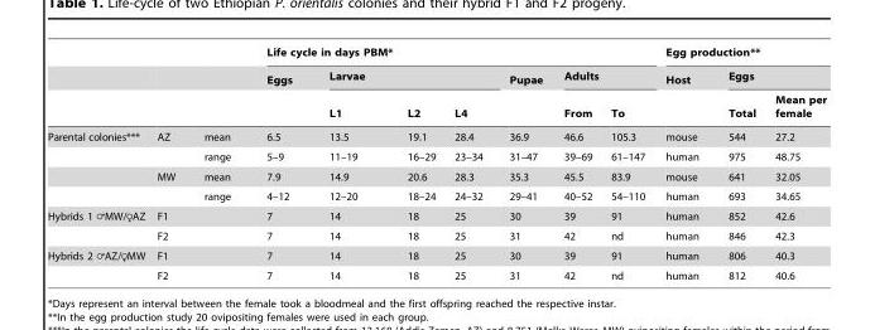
<table><thead><tr><td rowspan="3"></td><td rowspan="3"></td><td rowspan="3"></td><td colspan="7">Life cycle in days PBM*</td><td colspan="3">Egg production**</td></tr><tr><td rowspan="2">Eggs</td><td colspan="3">Larvae</td><td rowspan="2">Pupae</td><td colspan="2">Adults</td><td rowspan="2">Host</td><td colspan="2">Eggs</td></tr><tr><td>L1</td><td>L2</td><td>L4</td><td>From</td><td>To</td><td>Total</td><td>Mean per female</td></tr></thead><tbody><tr><td rowspan="4">Parental colonies***</td><td>AZ</td><td>mean</td><td>6.5</td><td>13.5</td><td>19.1</td><td>28.4</td><td>36.9</td><td>46.6</td><td>105.3</td><td>mouse</td><td>544</td><td>27.2</td></tr><tr><td></td><td>range</td><td>5–9</td><td>11–19</td><td>16–29</td><td>23–34</td><td>31–47</td><td>39–69</td><td>61–147</td><td>human</td><td>975</td><td>48.75</td></tr><tr><td>MW</td><td>mean</td><td>7.9</td><td>14.9</td><td>20.6</td><td>28.3</td><td>35.3</td><td>45.5</td><td>83.9</td><td>mouse</td><td>641</td><td>32.05</td></tr><tr><td></td><td>range</td><td>4–12</td><td>12–20</td><td>18–24</td><td>24–32</td><td>29–41</td><td>40–52</td><td>54–110</td><td>human</td><td>693</td><td>34.65</td></tr><tr><td rowspan="2">Hybrids 1 =MW/RAZ</td><td>F1</td><td></td><td>7</td><td>14</td><td>18</td><td>25</td><td>30</td><td>39</td><td>91</td><td>human</td><td>852</td><td>42.6</td></tr><tr><td>F2</td><td></td><td>7</td><td>14</td><td>18</td><td>25</td><td>31</td><td>42</td><td>nd</td><td>human</td><td>846</td><td>42.3</td></tr><tr><td rowspan="2">Hybrids 2 =AZ/RMW</td><td>F1</td><td></td><td>7</td><td>14</td><td>18</td><td>25</td><td>30</td><td>39</td><td>91</td><td>human</td><td>806</td><td>40.3</td></tr><tr><td>F2</td><td></td><td>7</td><td>14</td><td>18</td><td>25</td><td>31</td><td>42</td><td>nd</td><td>human</td><td>812</td><td>40.6</td></tr></tbody></table>